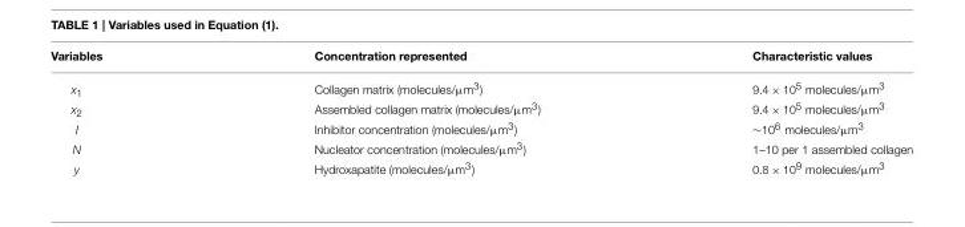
<table><thead><tr><td>Variables</td><td>Concentration represented</td><td>Characteristic values</td></tr></thead><tbody><tr><td>x<sub>1</sub></td><td>Collagen matrix (molecules/µm<sup>3</sup>)</td><td>9.4 × 10<sup>5</sup> molecules/µm<sup>3</sup></td></tr><tr><td>x<sub>2</sub></td><td>Assembled collagen matrix (molecules/µm<sup>3</sup>)</td><td>9.4 × 10<sup>5</sup> molecules/µm<sup>3</sup></td></tr><tr><td>I</td><td>Inhibitor concentration (molecules/µm<sup>3</sup>)</td><td>∼106 molecules/µm3</td></tr><tr><td>N</td><td>Nucleator concentration (molecules/µm<sup>3</sup>)</td><td>1–10 per 1 assembled collagen</td></tr><tr><td>y</td><td>Hydroxapatite (molecules/µm<sup>3</sup>)</td><td>0.8 × 10<sup>9</sup> molecules/µm<sup>3</sup></td></tr></tbody></table>